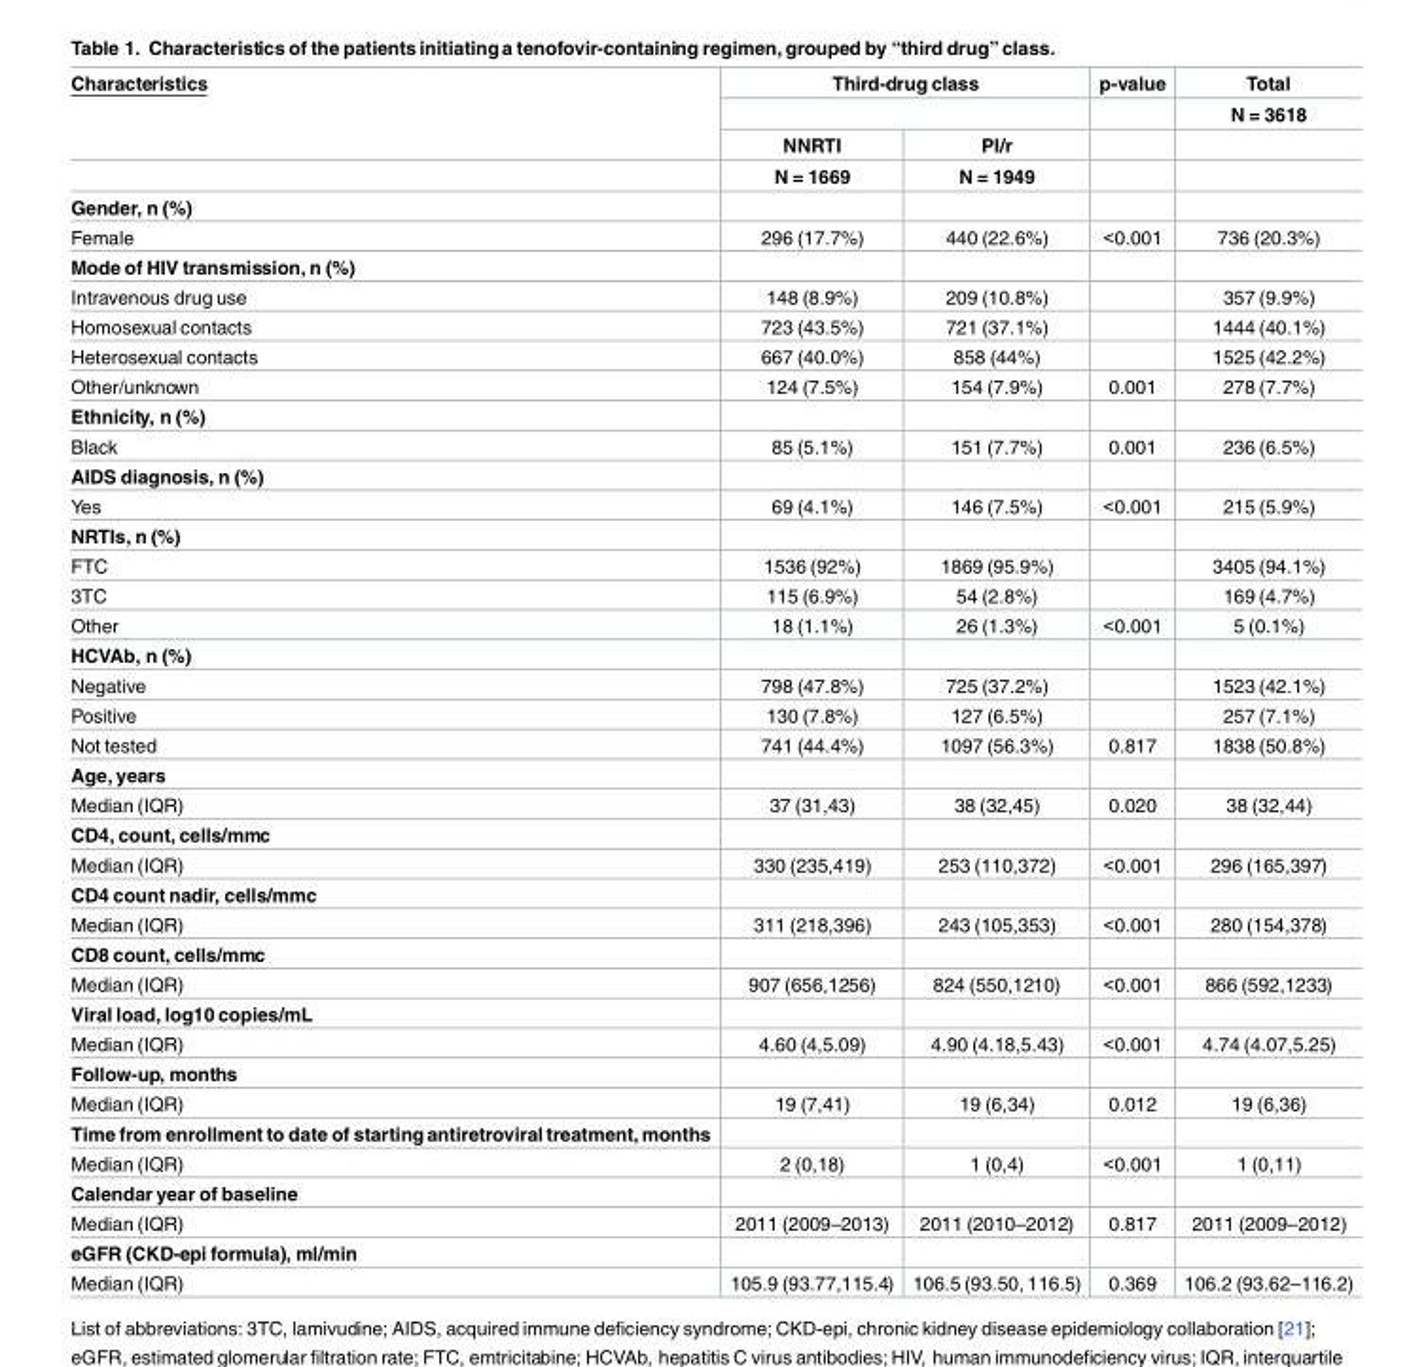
<table><thead><tr><td rowspan="4">Characteristics</td><td colspan="2">Third-drug class</td><td rowspan="4">p-value</td><td rowspan="4">Total N = 3618</td></tr><tr><td rowspan="3">NNRTI N = 1669</td><td rowspan="3">PI/r N = 1949</td></tr><tr></tr><tr></tr></thead><tbody><tr><td colspan="5">Gender, n (%)</td></tr><tr><td>Female</td><td>296 (17.7%)</td><td>440 (22.6%)</td><td>&lt;0.001</td><td>736 (20.3%)</td></tr><tr><td colspan="5">Mode of HIV transmission, n (%)</td></tr><tr><td>Intravenous drug use</td><td>148 (8.9%)</td><td>209 (10.8%)</td><td></td><td>357 (9.9%)</td></tr><tr><td>Homosexual contacts</td><td>723 (43.5%)</td><td>721 (37.1%)</td><td></td><td>1444 (40.1%)</td></tr><tr><td>Heterosexual contacts</td><td>667 (40.0%)</td><td>858 (44%)</td><td></td><td>1525 (42.2%)</td></tr><tr><td>Other/unknown</td><td>124 (7.5%)</td><td>154 (7.9%)</td><td>0.001</td><td>278 (7.7%)</td></tr><tr><td colspan="5">Ethnicity, n (%)</td></tr><tr><td>Black</td><td>85 (5.1%)</td><td>151 (7.7%)</td><td>0.001</td><td>236 (6.5%)</td></tr><tr><td colspan="5">AIDS diagnosis, n (%)</td></tr><tr><td>Yes</td><td>69 (4.1%)</td><td>146 (7.5%)</td><td>&lt;0.001</td><td>215 (5.9%)</td></tr><tr><td colspan="5">NRTIs, n (%)</td></tr><tr><td>FTC</td><td>1536 (92%)</td><td>1869 (95.9%)</td><td></td><td>3405 (94.1%)</td></tr><tr><td>3TC</td><td>115 (6.9%)</td><td>54 (2.8%)</td><td></td><td>169 (4.7%)</td></tr><tr><td>Other</td><td>18 (1.1%)</td><td>26 (1.3%)</td><td>&lt;0.001</td><td>5 (0.1%)</td></tr><tr><td colspan="5">HCVAb, n (%)</td></tr><tr><td>Negative</td><td>798 (47.8%)</td><td>725 (37.2%)</td><td></td><td>1523 (42.1%)</td></tr><tr><td>Positive</td><td>130 (7.8%)</td><td>127 (6.5%)</td><td></td><td>257 (7.1%)</td></tr><tr><td>Not tested</td><td>741 (44.4%)</td><td>1097 (56.3%)</td><td>0.817</td><td>1838 (50.8%)</td></tr><tr><td colspan="5">Age, years</td></tr><tr><td>Median (IQR)</td><td>37 (31,43)</td><td>38 (32,45)</td><td>0.020</td><td>38 (32,44)</td></tr><tr><td colspan="5">CD4, count, cells/mmc</td></tr><tr><td>Median (IQR)</td><td>330 (235,419)</td><td>253 (110,372)</td><td>&lt;0.001</td><td>296 (165,397)</td></tr><tr><td colspan="5">CD4 count nadir, cells/mmc</td></tr><tr><td>Median (IQR)</td><td>311 (218,396)</td><td>243 (105,353)</td><td>&lt;0.001</td><td>280 (154,378)</td></tr><tr><td colspan="5">CD8 count, cells/mmc</td></tr><tr><td>Median (IQR)</td><td>907 (656,1256)</td><td>824 (550,1210)</td><td>&lt;0.001</td><td>866 (592,1233)</td></tr><tr><td colspan="5">Viral load, log10 copies/mL</td></tr><tr><td>Median (IQR)</td><td>4.60 (4,5.09)</td><td>4.90 (4.18,5.43)</td><td>&lt;0.001</td><td>4.74 (4.07,5.25)</td></tr><tr><td colspan="5">Follow-up, months</td></tr><tr><td>Median (IQR)</td><td>19 (7,41)</td><td>19 (6,34)</td><td>0.012</td><td>19 (6,36)</td></tr><tr><td colspan="5">Time from enrollment to date of startingantiretroviral treatment, months</td></tr><tr><td>Median (IQR)</td><td>2 (0,18)</td><td>1 (0,4)</td><td>&lt;0.001</td><td>1 (0,11)</td></tr><tr><td colspan="5">Calendar year of baseline</td></tr><tr><td>Median (IQR)</td><td>2011 (2009–2013)</td><td>2011 (2010–2012)</td><td>0.817</td><td>2011 (2009–2012)</td></tr><tr><td colspan="5">eGFR (CKD-epi formula), ml/min</td></tr><tr><td>Median (IQR)</td><td>105.9 (93.77,115.4)</td><td>106.5 (93.50, 116.5)</td><td>0.369</td><td>106.2 (93.62–116.2)</td></tr></tbody></table>